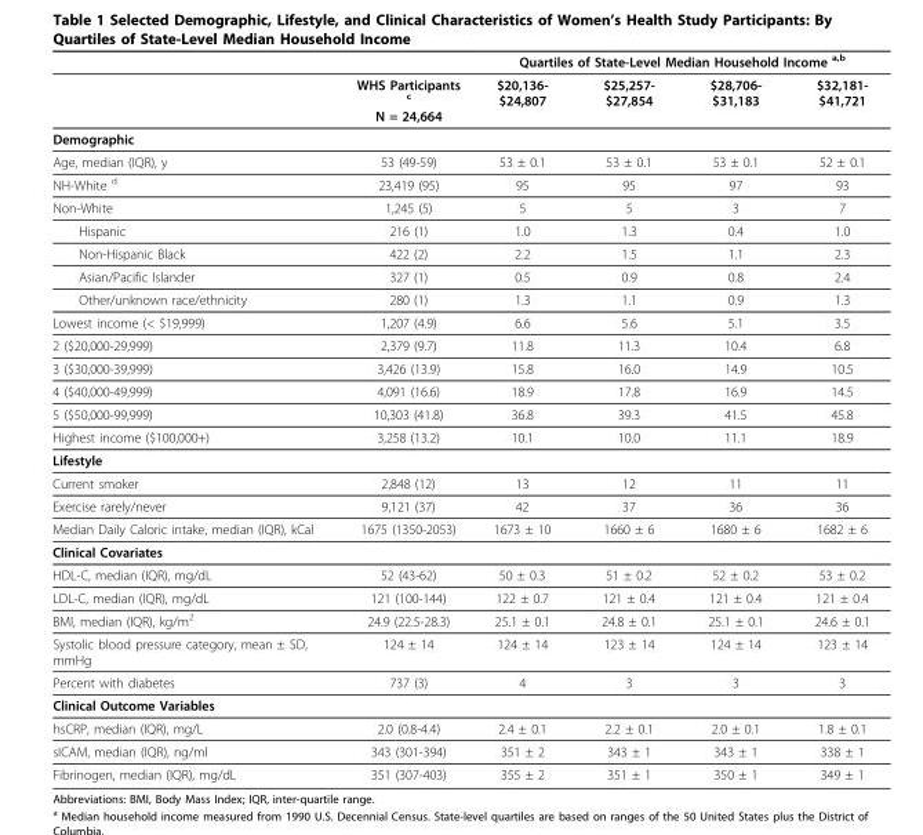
<table><thead><tr><td rowspan="2"></td><td rowspan="2">WHS Participants <sup>c</sup> N = 24,664</td><td colspan="4">Quartiles of State-Level Median Household Income <sup>a,b</sup></td></tr><tr><td>$20,136- $24,807</td><td>$25,257- $27,854</td><td>$28,706- $31,183</td><td>$32,181- $41,721</td></tr></thead><tbody><tr><td colspan="6">Demographic</td></tr><tr><td>Age, median (IQR), y</td><td>53 (49-59)</td><td>53 ± 0.1</td><td>53 ± 0.1</td><td>53 ± 0.1</td><td>52 ± 0.1</td></tr><tr><td>NH-White <sup>d</sup></td><td>23,419 (95)</td><td>95</td><td>95</td><td>97</td><td>93</td></tr><tr><td>Non-White</td><td>1,245 (5)</td><td>5</td><td>5</td><td>3</td><td>7</td></tr><tr><td>Hispanic</td><td>216 (1)</td><td>1.0</td><td>1.3</td><td>0.4</td><td>1.0</td></tr><tr><td>Non-Hispanic Black</td><td>422 (2)</td><td>2.2</td><td>1.5</td><td>1.1</td><td>2.3</td></tr><tr><td>Asian/Pacific Islander</td><td>327 (1)</td><td>0.5</td><td>0.9</td><td>0.8</td><td>2.4</td></tr><tr><td>Other/unknown race/ethnicity</td><td>280 (1)</td><td>1.3</td><td>1.1</td><td>0.9</td><td>1.3</td></tr><tr><td>Lowest income (&lt; $19,999)</td><td>1,207 (4.9)</td><td>6.6</td><td>5.6</td><td>5.1</td><td>3.5</td></tr><tr><td>2 ($20,000-29,999)</td><td>2,379 (9.7)</td><td>11.8</td><td>11.3</td><td>10.4</td><td>6.8</td></tr><tr><td>3 ($30,000-39,999)</td><td>3,426 (13.9)</td><td>15.8</td><td>16.0</td><td>14.9</td><td>10.5</td></tr><tr><td>4 ($40,000-49,999)</td><td>4,091 (16.6)</td><td>18.9</td><td>17.8</td><td>16.9</td><td>14.5</td></tr><tr><td>5 ($50,000-99,999)</td><td>10,303 (41.8)</td><td>36.8</td><td>39.3</td><td>41.5</td><td>45.8</td></tr><tr><td>Highest income ($100,000+)</td><td>3,258 (13.2)</td><td>10.1</td><td>10.0</td><td>11.1</td><td>18.9</td></tr><tr><td colspan="6">Lifestyle</td></tr><tr><td>Current smoker</td><td>2,848 (12)</td><td>13</td><td>12</td><td>11</td><td>11</td></tr><tr><td>Exercise rarely/never</td><td>9,121 (37)</td><td>42</td><td>37</td><td>36</td><td>36</td></tr><tr><td>Median Daily Caloric intake, median (IQR), kCal</td><td>1675 (1350-2053)</td><td>1673 ± 10</td><td>1660 ± 6</td><td>1680 ± 6</td><td>1682 ± 6</td></tr><tr><td colspan="6">Clinical Covariates</td></tr><tr><td>HDL-C, median (IQR), mg/dL</td><td>52 (43-62)</td><td>50 ± 0.3</td><td>51 ± 0.2</td><td>52 ± 0.2</td><td>53 ± 0.2</td></tr><tr><td>LDL-C, median (IQR), mg/dL</td><td>121 (100-144)</td><td>122 ± 0.7</td><td>121 ± 0.4</td><td>121 ± 0.4</td><td>121 ± 0.4</td></tr><tr><td>BMI, median (IQR), kg/m<sup>2</sup></td><td>24.9 (22.5-28.3)</td><td>25.1 ± 0.1</td><td>24.8 ± 0.1</td><td>25.1 ± 0.1</td><td>24.6 ± 0.1</td></tr><tr><td>Systolic blood pressure category, mean ± SD, mmHg</td><td>124 ± 14</td><td>124 ± 14</td><td>123 ± 14</td><td>124 ± 14</td><td>123 ± 14</td></tr><tr><td>Percent with diabetes</td><td>737 (3)</td><td>4</td><td>3</td><td>3</td><td>3</td></tr><tr><td colspan="6">Clinical Outcome Variables</td></tr><tr><td>hsCRP, median (IQR), mg/L</td><td>2.0 (0.8-4.4)</td><td>2.4 ± 0.1</td><td>2.2 ± 0.1</td><td>2.0 ± 0.1</td><td>1.8 ± 0.1</td></tr><tr><td>sICAM, median (IQR), ng/ml</td><td>343 (301-394)</td><td>351 ± 2</td><td>343 ± 1</td><td>343 ± 1</td><td>338 ± 1</td></tr><tr><td>Fibrinogen, median (IQR), mg/dL</td><td>351 (307-403)</td><td>355 ± 2</td><td>351 ± 1</td><td>350 ± 1</td><td>349 ± 1</td></tr></tbody></table>